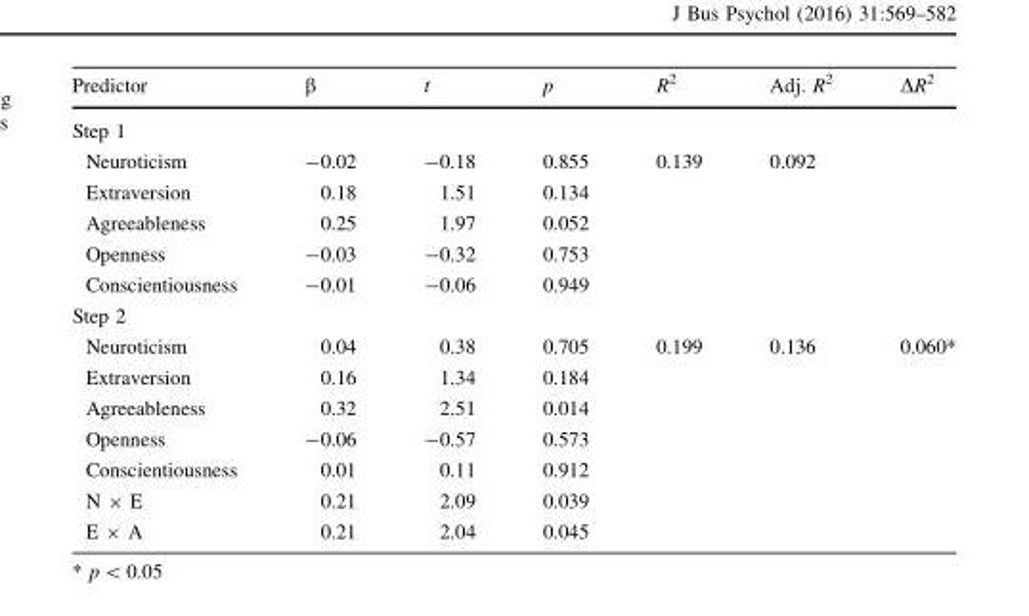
<table><thead><tr><td>Predictor</td><td>β</td><td>t</td><td>p</td><td>R<sup>2</sup></td><td>Adj. R<sup>2</sup></td><td>ΔR<sup>2</sup></td></tr></thead><tbody><tr><td colspan="7">Step 1</td></tr><tr><td>Neuroticism</td><td>-0.02</td><td>-0.18</td><td>0.855</td><td>0.139</td><td>0.092</td><td></td></tr><tr><td>Extraversion</td><td>0.18</td><td>1.51</td><td>0.134</td><td></td><td></td><td></td></tr><tr><td>Agreeableness</td><td>0.25</td><td>1.97</td><td>0.052</td><td></td><td></td><td></td></tr><tr><td>Openness</td><td>-0.03</td><td>-0.32</td><td>0.753</td><td></td><td></td><td></td></tr><tr><td>Conscientiousness</td><td>-0.01</td><td>-0.06</td><td>0.949</td><td></td><td></td><td></td></tr><tr><td colspan="7">Step 2</td></tr><tr><td>Neuroticism</td><td>0.04</td><td>0.38</td><td>0.705</td><td>0.199</td><td>0.136</td><td>0.060*</td></tr><tr><td>Extraversion</td><td>0.16</td><td>1.34</td><td>0.184</td><td></td><td></td><td></td></tr><tr><td>Agreeableness</td><td>0.32</td><td>2.51</td><td>0.014</td><td></td><td></td><td></td></tr><tr><td>Openness</td><td>-0.06</td><td>-0.57</td><td>0.573</td><td></td><td></td><td></td></tr><tr><td>Conscientiousness</td><td>0.01</td><td>0.11</td><td>0.912</td><td></td><td></td><td></td></tr><tr><td>N × E</td><td>0.21</td><td>2.09</td><td>0.039</td><td></td><td></td><td></td></tr><tr><td>E × A</td><td>0.21</td><td>2.04</td><td>0.045</td><td></td><td></td><td></td></tr></tbody></table>